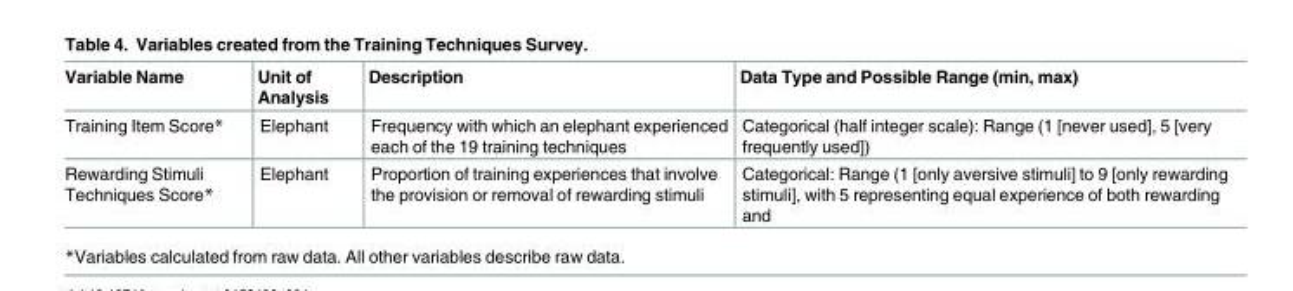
<table><thead><tr><td>Variable Name</td><td>Unit of Analysis</td><td>Description</td><td>Data Type and Possible Range (min, max)</td></tr></thead><tbody><tr><td>Training Item Score*</td><td>Elephant</td><td>Frequency with which an elephant experienced each of the 19 training techniques</td><td>Categorical (half integer scale): Range (1 [never used], 5 [very frequently used])</td></tr><tr><td>Rewarding Stimuli Techniques Score*</td><td>Elephant</td><td>Proportion of training experiences that involve the provision or removal of rewarding stimuli</td><td>Categorical: Range (1 [only aversive stimuli] to 9 [only rewarding stimuli], with 5 representing equal experience of both rewarding and</td></tr></tbody></table>